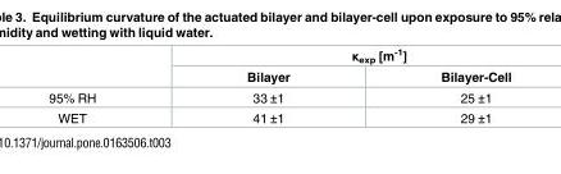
<table><thead><tr><td rowspan="2"></td><td colspan="2">κ<sub>exp</sub> [m<sup>-1</sup>]</td></tr><tr><td>Bilayer</td><td>Bilayer-Cell</td></tr></thead><tbody><tr><td>95% RH</td><td>33 ±1</td><td>25 ±1</td></tr><tr><td>WET</td><td>41 ±1</td><td>29 ±1</td></tr></tbody></table>